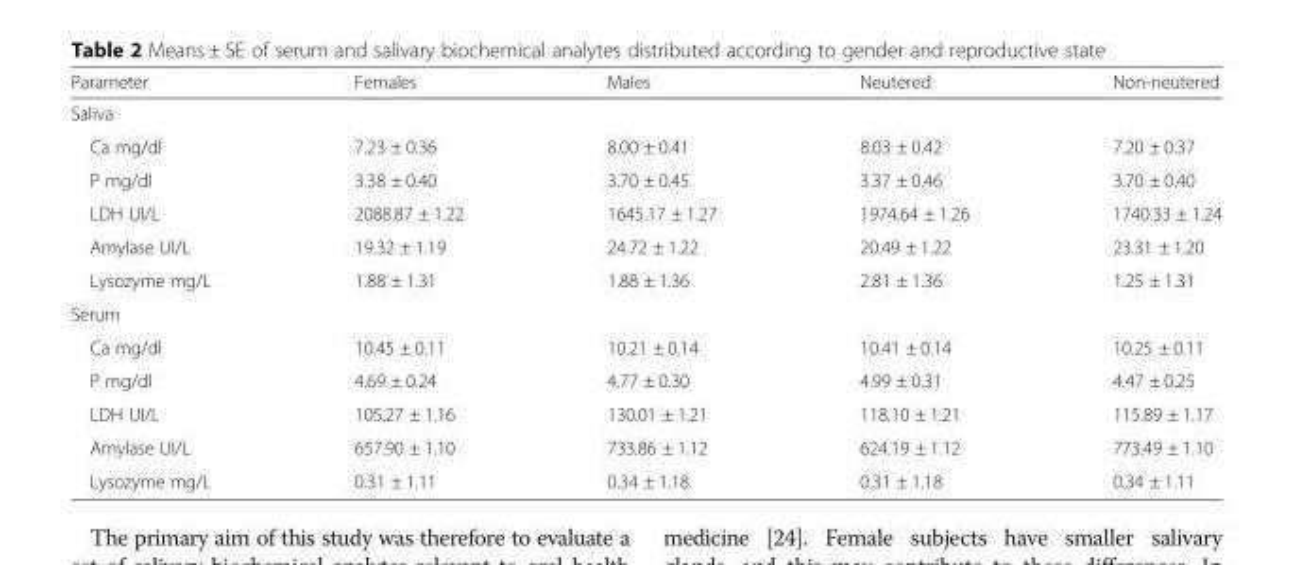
<table><thead><tr><td>Parameter</td><td>Females</td><td>Males</td><td>Neutered</td><td>Non-neutered</td></tr></thead><tbody><tr><td colspan="5">Saliva</td></tr><tr><td>Ca mg/dl</td><td>7.23 ± 0.36</td><td>8.00 ± 0.41</td><td>8.03 ± 0.42</td><td>7.20 ± 0.37</td></tr><tr><td>P mg/dl</td><td>3.38 ± 0.40</td><td>3.70 ± 0.45</td><td>3.37 ± 0.46</td><td>3.70 ± 0.40</td></tr><tr><td>LDH UI/L</td><td>2088.87 ± 1.22</td><td>1645.17 ± 1.27</td><td>1974.64 ± 1.26</td><td>1740.33 ± 1.24</td></tr><tr><td>Amylase UI/L</td><td>19.32 ± 1.19</td><td>24.72 ± 1.22</td><td>20.49 ± 1.22</td><td>23.31 ± 1.20</td></tr><tr><td>Lysozyme mg/L</td><td>1.88 ± 1.31</td><td>1.88 ± 1.36</td><td>2.81 ± 1.36</td><td>1.25 ± 1.31</td></tr><tr><td colspan="5">Serum</td></tr><tr><td>Ca mg/dl</td><td>10.45 ± 0.11</td><td>10.21 ± 0.14</td><td>10.41 ± 0.14</td><td>10.25 ± 0.11</td></tr><tr><td>P mg/dl</td><td>4.69 ± 0.24</td><td>4.77 ± 0.30</td><td>4.99 ± 0.31</td><td>4.47 ± 0.25</td></tr><tr><td>LDH UI/L</td><td>105.27 ± 1.16</td><td>130.01 ± 1.21</td><td>118.10 ± 1.21</td><td>115.89 ± 1.17</td></tr><tr><td>Amylase UI/L</td><td>657.90 ± 1.10</td><td>733.86 ± 1.12</td><td>624.19 ± 1.12</td><td>773.49 ± 1.10</td></tr><tr><td>Lysozyme mg/L</td><td>0.31 ± 1.11</td><td>0.34 ± 1.18</td><td>0.31 ± 1.18</td><td>0.34 ± 1.11</td></tr></tbody></table>